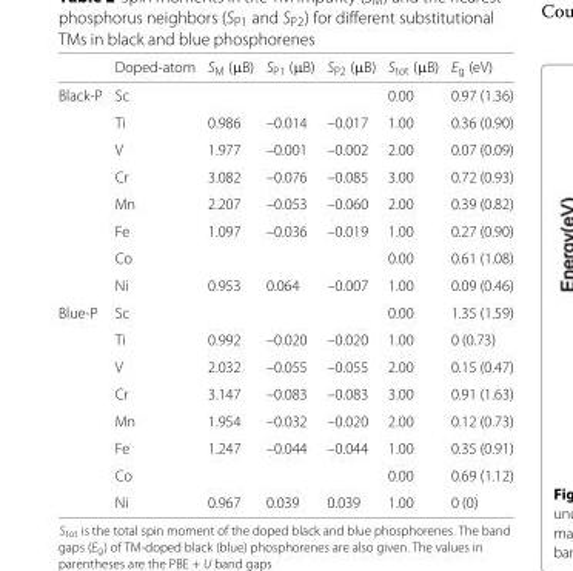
<table><thead><tr><td></td><td>Doped-atom</td><td>S<sub>M</sub> (μB)</td><td>S<sub>P1</sub> (μB)</td><td>S<sub>P2</sub> (μB)</td><td>S<sub>tot</sub> (μB)</td><td>E<sub>g</sub> (eV)</td></tr></thead><tbody><tr><td rowspan="8">Black-P</td><td>Sc</td><td></td><td></td><td></td><td>0.00</td><td>0.97 (1.36)</td></tr><tr><td>Ti</td><td>0.986</td><td>–0.014</td><td>–0.017</td><td>1.00</td><td>0.36 (0.90)</td></tr><tr><td>V</td><td>1.977</td><td>–0.001</td><td>–0.002</td><td>2.00</td><td>0.07 (0.09)</td></tr><tr><td>Cr</td><td>3.082</td><td>–0.076</td><td>–0.085</td><td>3.00</td><td>0.72 (0.93)</td></tr><tr><td>Mn</td><td>2.207</td><td>–0.053</td><td>–0.060</td><td>2.00</td><td>0.39 (0.82)</td></tr><tr><td>Fe</td><td>1.097</td><td>–0.036</td><td>–0.019</td><td>1.00</td><td>0.27 (0.90)</td></tr><tr><td>Co</td><td></td><td></td><td></td><td>0.00</td><td>0.61 (1.08)</td></tr><tr><td>Ni</td><td>0.953</td><td>0.064</td><td>–0.007</td><td>1.00</td><td>0.09 (0.46)</td></tr><tr><td rowspan="8">Blue-P</td><td>Sc</td><td></td><td></td><td></td><td>0.00</td><td>1.35 (1.59)</td></tr><tr><td>Ti</td><td>0.992</td><td>–0.020</td><td>–0.020</td><td>1.00</td><td>0 (0.73)</td></tr><tr><td>V</td><td>2.032</td><td>–0.055</td><td>–0.055</td><td>2.00</td><td>0.15 (0.47)</td></tr><tr><td>Cr</td><td>3.147</td><td>–0.083</td><td>–0.083</td><td>3.00</td><td>0.91 (1.63)</td></tr><tr><td>Mn</td><td>1.954</td><td>–0.032</td><td>–0.020</td><td>2.00</td><td>0.12 (0.73)</td></tr><tr><td>Fe</td><td>1.247</td><td>–0.044</td><td>–0.044</td><td>1.00</td><td>0.35 (0.91)</td></tr><tr><td>Co</td><td></td><td></td><td></td><td>0.00</td><td>0.69 (1.12)</td></tr><tr><td>Ni</td><td>0.967</td><td>0.039</td><td>0.039</td><td>1.00</td><td>0 (0)</td></tr></tbody></table>